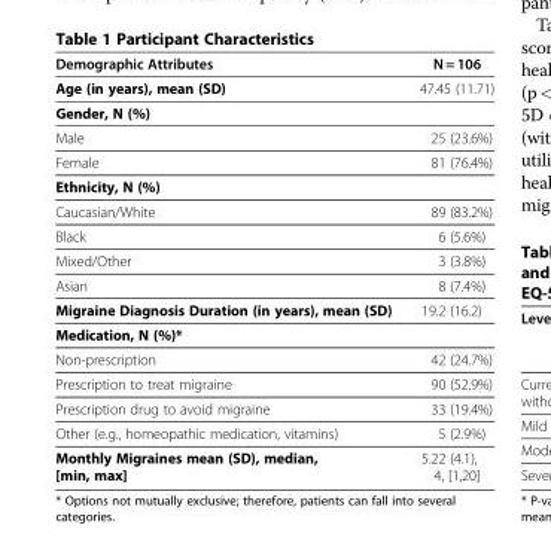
<table><thead><tr><td>Demographic Attributes</td><td>N = 106</td></tr></thead><tbody><tr><td>Age (in years), mean (SD)</td><td>47.45 (11.71)</td></tr><tr><td colspan="2">Gender, N (%)</td></tr><tr><td>Male</td><td>25 (23.6%)</td></tr><tr><td>Female</td><td>81 (76.4%)</td></tr><tr><td colspan="2">Ethnicity, N (%)</td></tr><tr><td>Caucasian/White</td><td>89 (83.2%)</td></tr><tr><td>Black</td><td>6 (5.6%)</td></tr><tr><td>Mixed/Other</td><td>3 (3.8%)</td></tr><tr><td>Asian</td><td>8 (7.4%)</td></tr><tr><td>Migraine Diagnosis Duration (in years), mean (SD)</td><td>19.2 (16.2)</td></tr><tr><td colspan="2">Medication, N (%)*</td></tr><tr><td>Non-prescription</td><td>42 (24.7%)</td></tr><tr><td>Prescription to treat migraine</td><td>90 (52.9%)</td></tr><tr><td>Prescription drug to avoid migraine</td><td>33 (19.4%)</td></tr><tr><td>Other (e.g., homeopathic medication, vitamins)</td><td>5 (2.9%)</td></tr><tr><td>Monthly Migraines mean (SD), median, [min, max]</td><td>5.22 (4.1), 4, [1,20]</td></tr></tbody></table>